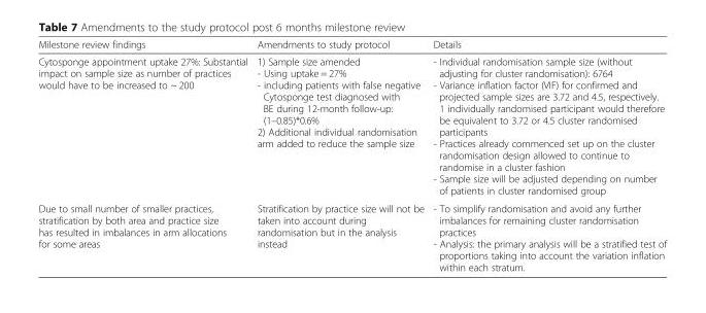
<table><thead><tr><td>Milestone review findings</td><td>Amendments to study protocol</td><td>Details</td></tr></thead><tbody><tr><td>Cytosponge appointment uptake 27%: Substantial impact on sample size as number of practices would have to be increased to ~ 200</td><td>1) Sample size amended - Using uptake = 27% - including patients with false negative Cytosponge test diagnosed with BE during 12-month follow-up: (1–0.85)*0.6% 2) Additional individual randomisation arm added to reduce the sample size</td><td>- Individual randomisation sample size (without adjusting for cluster randomisation): 6764 - Variance inflation factor (VIF) for confirmed and projected sample sizes are 3.72 and 4.5, respectively. 1 individually randomised participant would therefore be equivalent to 3.72 or 4.5 cluster randomised participants - Practices already commenced set up on the cluster randomisation design allowed to continue to randomise in a cluster fashion - Sample size will be adjusted depending on number of patients in cluster randomised group</td></tr><tr><td>Due to small number of smaller practices, stratification by both area and practice size has resulted in imbalances in arm allocations for some areas</td><td>Stratification by practice size will not be taken into account during randomisation but in the analysis instead</td><td>- To simplify randomisation and avoid any further imbalances for remaining cluster randomisation practices - Analysis: the primary analysis will be a stratified test of proportions taking into account the variation inflation within each stratum.</td></tr></tbody></table>